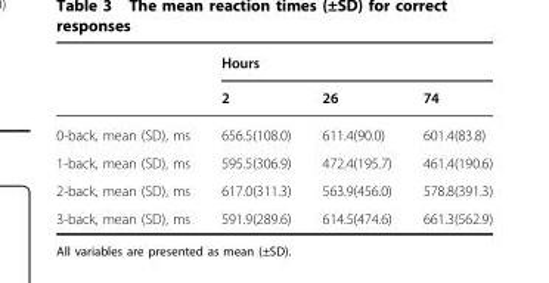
<table><thead><tr><td rowspan="2"></td><td colspan="3">Hours</td></tr><tr><td>2</td><td>26</td><td>74</td></tr></thead><tbody><tr><td>0-back, mean (SD), ms</td><td>656.5(108.0)</td><td>611.4(90.0)</td><td>601.4(83.8)</td></tr><tr><td>1-back, mean (SD), ms</td><td>595.5(306.9)</td><td>472.4(195.7)</td><td>461.4(190.6)</td></tr><tr><td>2-back, mean (SD), ms</td><td>617.0(311.3)</td><td>563.9(456.0)</td><td>578.8(391.3)</td></tr><tr><td>3-back, mean (SD), ms</td><td>591.9(289.6)</td><td>614.5(474.6)</td><td>661.3(562.9)</td></tr></tbody></table>